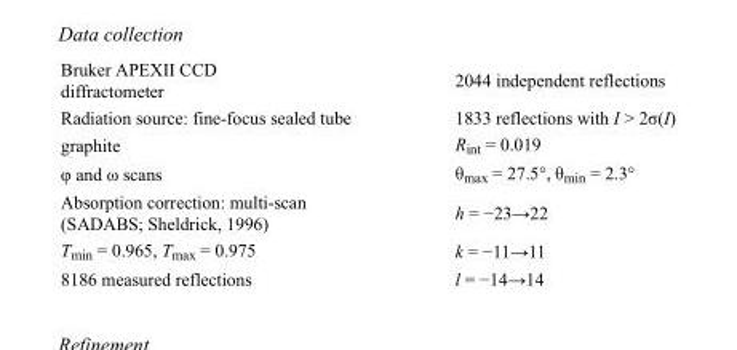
<table><tbody><tr><td>Bruker APEXII CCD diffractometer</td><td>2044 independent reflections</td></tr><tr><td>Radiation source: fine-focus sealed tube</td><td>1833 reflections with I &gt; 2σ(I)</td></tr><tr><td>graphite</td><td>R<sub>int</sub> = 0.019</td></tr><tr><td>φ and ω scans</td><td>θ<sub>max</sub> = 27.5°, θ<sub>min</sub> = 2.3°</td></tr><tr><td>Absorption correction: multi-scan (SADABS; Sheldrick, 1996)</td><td>h = −23→22</td></tr><tr><td>T<sub>min</sub> = 0.965, T<sub>max</sub> = 0.975</td><td>k = −11→11</td></tr><tr><td>8186 measured reflections</td><td>l = −14→14</td></tr></tbody></table>